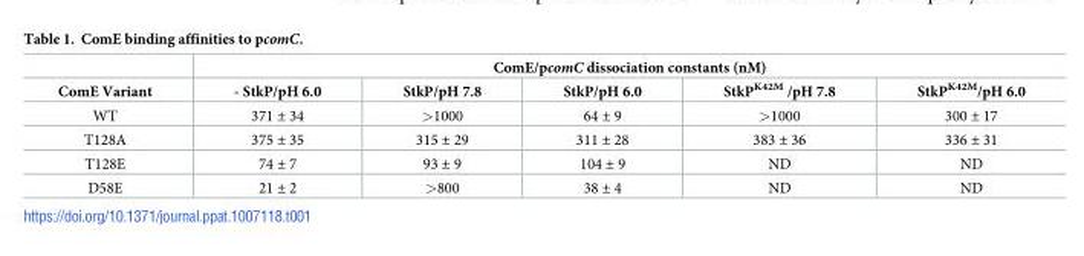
<table><thead><tr><td rowspan="2">ComE Variant</td><td colspan="5">ComE/pcomC dissociation constants (nM)</td></tr><tr><td>- StkP/pH 6.0</td><td>StkP/pH 7.8</td><td>StkP/pH 6.0</td><td>StkP<sup>K42M</sup> /pH 7.8</td><td>StkP<sup>K42M</sup>/pH 6.0</td></tr></thead><tbody><tr><td>WT</td><td>371 ± 34</td><td>&gt;1000</td><td>64 ± 9</td><td>&gt;1000</td><td>300 ± 17</td></tr><tr><td>T128A</td><td>375 ± 35</td><td>315 ± 29</td><td>311 ± 28</td><td>383 ± 36</td><td>336 ± 31</td></tr><tr><td>T128E</td><td>74 ± 7</td><td>93 ± 9</td><td>104 ± 9</td><td>ND</td><td>ND</td></tr><tr><td>D58E</td><td>21 ± 2</td><td>&gt;800</td><td>38 ± 4</td><td>ND</td><td>ND</td></tr></tbody></table>